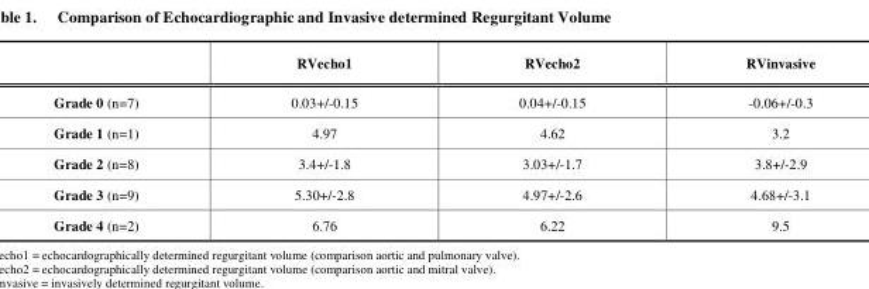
<table><thead><tr><td></td><td>RVecho1</td><td>RVecho2</td><td>RVinvasive</td></tr></thead><tbody><tr><td>Grade 0 (n=7)</td><td>0.03+/-0.15</td><td>0.04+/-0.15</td><td>-0.06+/-0.3</td></tr><tr><td>Grade 1 (n=1)</td><td>4.97</td><td>4.62</td><td>3.2</td></tr><tr><td>Grade 2 (n=8)</td><td>3.4+/-1.8</td><td>3.03+/-1.7</td><td>3.8+/-2.9</td></tr><tr><td>Grade 3 (n=9)</td><td>5.30+/-2.8</td><td>4.97+/-2.6</td><td>4.68+/-3.1</td></tr><tr><td>Grade 4 (n=2)</td><td>6.76</td><td>6.22</td><td>9.5</td></tr></tbody></table>